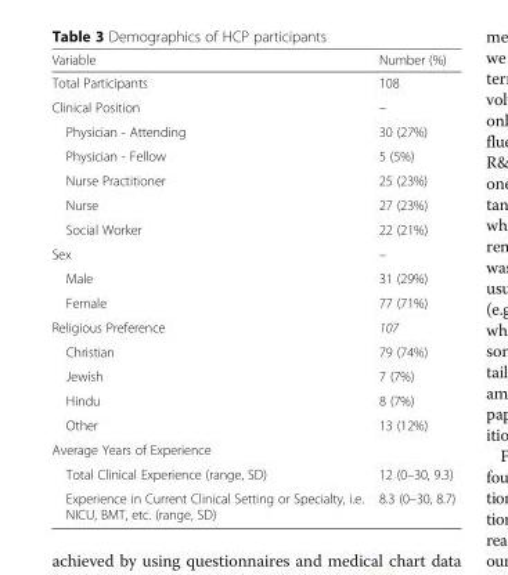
<table><thead><tr><td>Variable</td><td>Number (%)</td></tr></thead><tbody><tr><td>Total Participants</td><td>108</td></tr><tr><td>Clinical Position</td><td>–</td></tr><tr><td>Physician - Attending</td><td>30 (27%)</td></tr><tr><td>Physician - Fellow</td><td>5 (5%)</td></tr><tr><td>Nurse Practitioner</td><td>25 (23%)</td></tr><tr><td>Nurse</td><td>27 (23%)</td></tr><tr><td>Social Worker</td><td>22 (21%)</td></tr><tr><td>Sex</td><td>–</td></tr><tr><td>Male</td><td>31 (29%)</td></tr><tr><td>Female</td><td>77 (71%)</td></tr><tr><td>Religious Preference</td><td>107</td></tr><tr><td>Christian</td><td>79 (74%)</td></tr><tr><td>Jewish</td><td>7 (7%)</td></tr><tr><td>Hindu</td><td>8 (7%)</td></tr><tr><td>Other</td><td>13 (12%)</td></tr><tr><td colspan="2">Average Years of Experience</td></tr><tr><td>Total Clinical Experience (range, SD)</td><td>12 (0–30, 9.3)</td></tr><tr><td>Experience in Current Clinical Setting or Specialty, i.e. NICU, BMT, etc. (range, SD)</td><td>8.3 (0–30, 8.7)</td></tr></tbody></table>